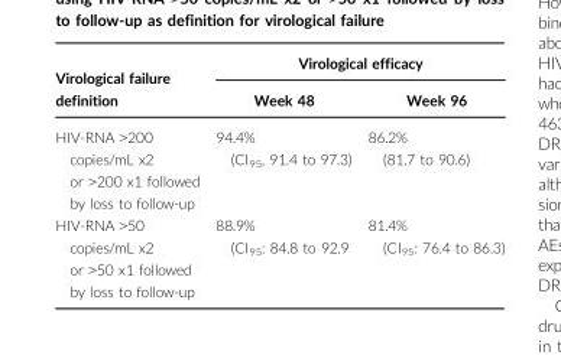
<table><thead><tr><td rowspan="2">Virological failure definition</td><td colspan="2">Virological efficacy</td></tr><tr><td>Week 48</td><td>Week 96</td></tr></thead><tbody><tr><td>HIV-RNA &gt;200 copies/mL x2 or &gt;200 x1 followed by loss to follow-up</td><td>94.4% (CI<sub>95</sub>, 91.4 to 97.3)</td><td>86.2% (81.7 to 90.6)</td></tr><tr><td>HIV-RNA &gt;50 copies/mL x2 or &gt;50 x1 followed by loss to follow-up</td><td>88.9% (CI<sub>95</sub>: 84.8 to 92.9</td><td>81.4% (CI<sub>95</sub>: 76.4 to 86.3)</td></tr></tbody></table>